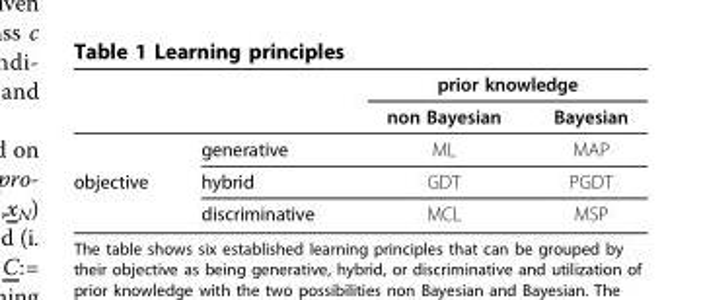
<table><thead><tr><td rowspan="2"></td><td rowspan="2"></td><td colspan="2">prior knowledge</td></tr><tr><td>non Bayesian</td><td>Bayesian</td></tr></thead><tbody><tr><td></td><td>generative</td><td>ML</td><td>MAP</td></tr><tr><td rowspan="2">objective</td><td>hybrid</td><td>GDT</td><td>PGDT</td></tr><tr><td>discriminative</td><td>MCL</td><td>MSP</td></tr></tbody></table>